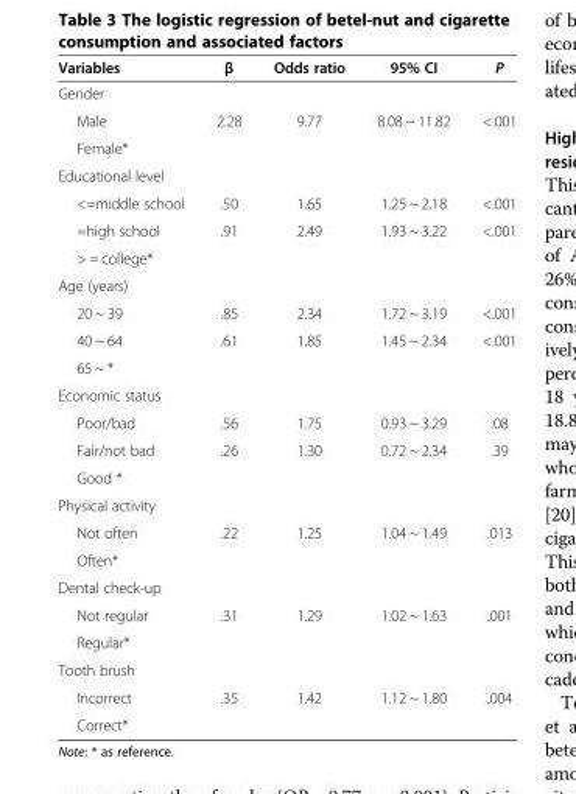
<table><thead><tr><td>Variables</td><td>β</td><td>Odds ratio</td><td>95% CI</td><td>P</td></tr></thead><tbody><tr><td colspan="5">Gender</td></tr><tr><td>Male</td><td>2.28</td><td>9.77</td><td>8.08 ~ 11.82</td><td>&lt;.001</td></tr><tr><td colspan="5">Female*</td></tr><tr><td colspan="5">Educational level</td></tr><tr><td>&lt;=middle school</td><td>.50</td><td>1.65</td><td>1.25 ~ 2.18</td><td>&lt;.001</td></tr><tr><td>=high school</td><td>.91</td><td>2.49</td><td>1.93 ~ 3.22</td><td>&lt;.001</td></tr><tr><td colspan="5">&gt; = college*</td></tr><tr><td colspan="5">Age (years)</td></tr><tr><td>20 ~ 39</td><td>.85</td><td>2.34</td><td>1.72 ~ 3.19</td><td>&lt;.001</td></tr><tr><td>40 ~ 64</td><td>.61</td><td>1.85</td><td>1.45 ~ 2.34</td><td>&lt;.001</td></tr><tr><td colspan="5">65 ~ *</td></tr><tr><td colspan="5">Economic status</td></tr><tr><td>Poor/bad</td><td>.56</td><td>1.75</td><td>0.93 ~ 3.29</td><td>.08</td></tr><tr><td>Fair/not bad</td><td>.26</td><td>1.30</td><td>0.72 ~ 2.34</td><td>.39</td></tr><tr><td colspan="5">Good *</td></tr><tr><td colspan="5">Physical activity</td></tr><tr><td>Not often</td><td>.22</td><td>1.25</td><td>1.04 ~ 1.49</td><td>.013</td></tr><tr><td colspan="5">Often*</td></tr><tr><td colspan="5">Dental check-up</td></tr><tr><td>Not regular</td><td>.31</td><td>1.29</td><td>1.02 ~ 1.63</td><td>.001</td></tr><tr><td colspan="5">Regular*</td></tr><tr><td colspan="5">Tooth brush</td></tr><tr><td>Incorrect</td><td>.35</td><td>1.42</td><td>1.12 ~ 1.80</td><td>.004</td></tr><tr><td>Correct*</td><td></td><td></td><td></td><td></td></tr></tbody></table>